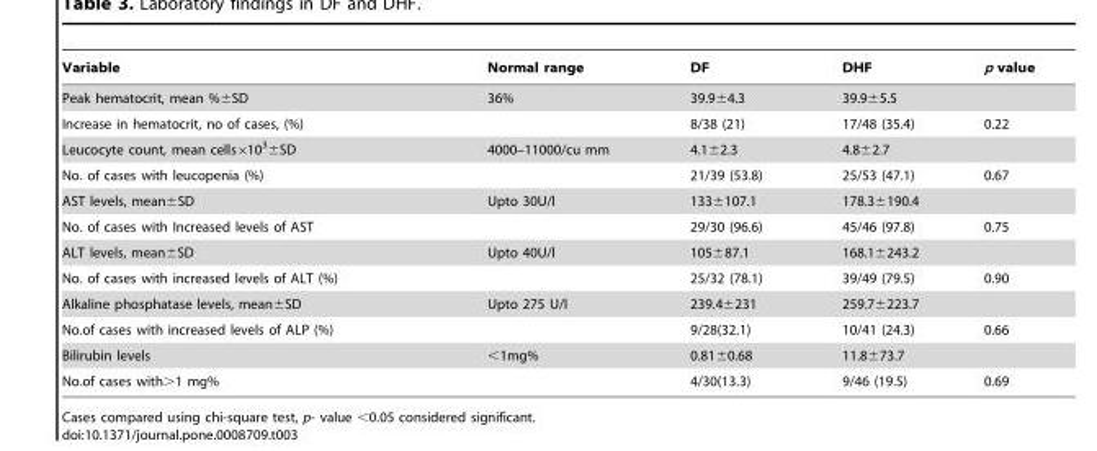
<table><thead><tr><td>Variable</td><td>Normal range</td><td>DF</td><td>DHF</td><td>p value</td></tr></thead><tbody><tr><td>Peak hematocrit, mean %±SD</td><td>36%</td><td>39.9±4.3</td><td>39.9±5.5</td><td></td></tr><tr><td>Increase in hematocrit, no of cases, (%)</td><td></td><td>8/38 (21)</td><td>17/48 (35.4)</td><td>0.22</td></tr><tr><td>Leucocyte count, mean cells×10<sup>3</sup>±SD</td><td>4000–11000/cu mm</td><td>4.1±2.3</td><td>4.8±2.7</td><td></td></tr><tr><td>No. of cases with leucopenia (%)</td><td></td><td>21/39 (53.8)</td><td>25/53 (47.1)</td><td>0.67</td></tr><tr><td>AST levels, mean±SD</td><td>Upto 30U/l</td><td>133±107.1</td><td>178.3±190.4</td><td></td></tr><tr><td>No. of cases with Increased levels of AST</td><td></td><td>29/30 (96.6)</td><td>45/46 (97.8)</td><td>0.75</td></tr><tr><td>ALT levels, mean±SD</td><td>Upto 40U/l</td><td>105±87.1</td><td>168.1±243.2</td><td></td></tr><tr><td>No. of cases with increased levels of ALT (%)</td><td></td><td>25/32 (78.1)</td><td>39/49 (79.5)</td><td>0.90</td></tr><tr><td>Alkaline phosphatase levels, mean±SD</td><td>Upto 275 U/l</td><td>239.4±231</td><td>259.7±223.7</td><td></td></tr><tr><td>No.of cases with increased levels of ALP (%)</td><td></td><td>9/28(32.1)</td><td>10/41 (24.3)</td><td>0.66</td></tr><tr><td>Bilirubin levels</td><td>&lt;1mg%</td><td>0.81±0.68</td><td>11.8±73.7</td><td></td></tr><tr><td>No.of cases with&gt;1 mg%</td><td></td><td>4/30(13.3)</td><td>9/46 (19.5)</td><td>0.69</td></tr></tbody></table>